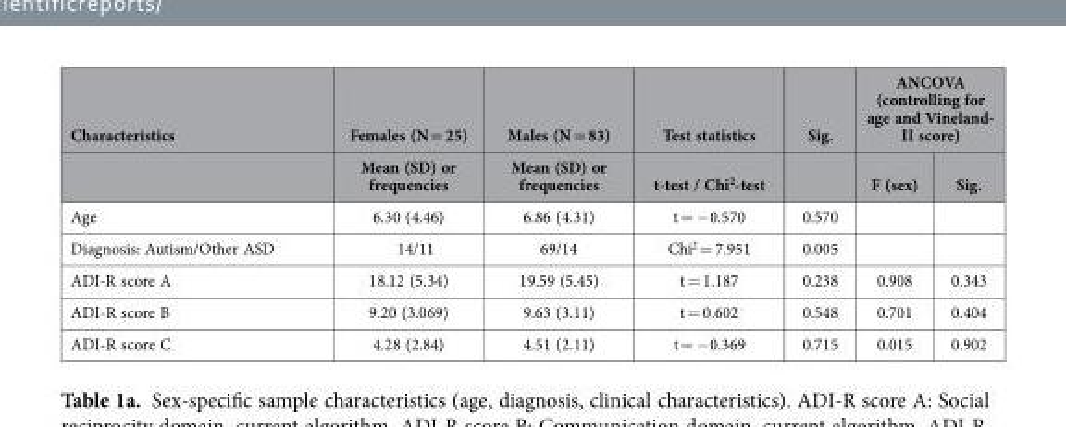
<table><thead><tr><td rowspan="2">Characteristics</td><td rowspan="2">Females (N = 25) Mean (SD) or frequencies</td><td rowspan="2">Males (N = 83) Mean (SD) or frequencies</td><td rowspan="2">Test statistics t-test / Chi<sup>2</sup>-test</td><td rowspan="2">Sig.</td><td colspan="2">ANCOVA (controlling for age and Vineland- II score)</td></tr><tr><td>F (sex)</td><td>Sig.</td></tr></thead><tbody><tr><td>Age</td><td>6.30 (4.46)</td><td>6.86 (4.31)</td><td>t = − 0.570</td><td>0.570</td><td></td><td></td></tr><tr><td>Diagnosis: Autism/Other ASD</td><td>14/11</td><td>69/14</td><td>Chi<sup>2</sup> = 7.951</td><td>0.005</td><td></td><td></td></tr><tr><td>ADI-R score A</td><td>18.12 (5.34)</td><td>19.59 (5.45)</td><td>t = 1.187</td><td>0.238</td><td>0.908</td><td>0.343</td></tr><tr><td>ADI-R score B</td><td>9.20 (3.069)</td><td>9.63 (3.11)</td><td>t = 0.602</td><td>0.548</td><td>0.701</td><td>0.404</td></tr><tr><td>ADI-R score C</td><td>4.28 (2.84)</td><td>4.51 (2.11)</td><td>t = − 0.369</td><td>0.715</td><td>0.015</td><td>0.902</td></tr></tbody></table>